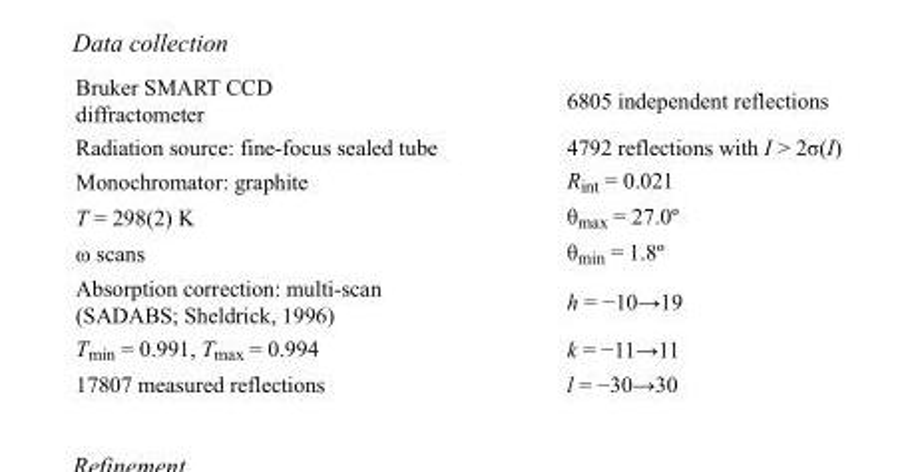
<table><tbody><tr><td>Bruker SMART CCD diffractometer</td><td>6805 independent reflections</td></tr><tr><td>Radiation source: fine-focus sealed tube</td><td>4792 reflections with I &gt; 2σ(I)</td></tr><tr><td>Monochromator: graphite</td><td>R<sub>int</sub> = 0.021</td></tr><tr><td>T = 298(2) K</td><td>θ<sub>max</sub> = 27.0º</td></tr><tr><td>ω scans</td><td>θ<sub>min</sub> = 1.8º</td></tr><tr><td>Absorption correction: multi-scan (SADABS; Sheldrick, 1996)</td><td>h = −10→19</td></tr><tr><td>T<sub>min</sub> = 0.991, T<sub>max</sub> = 0.994</td><td>k = −11→11</td></tr><tr><td>17807 measured reflections</td><td>l = −30→30</td></tr></tbody></table>